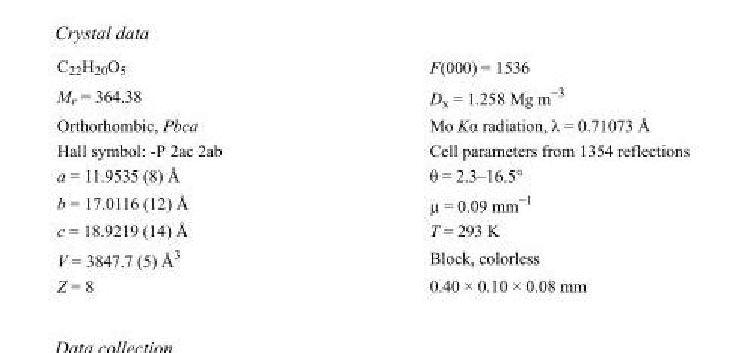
<table><tbody><tr><td>C<sub>22</sub>H<sub>20</sub>O<sub>5</sub></td><td>F(000) = 1536</td></tr><tr><td>M<sub>r</sub> = 364.38</td><td>D<sub>x</sub> = 1.258 Mg m<sup>−3</sup></td></tr><tr><td>Orthorhombic, Pbca</td><td>Mo Kα radiation, λ = 0.71073 Å</td></tr><tr><td>Hall symbol: -P 2ac 2ab</td><td>Cell parameters from 1354 reflections</td></tr><tr><td>a = 11.9535 (8) Å</td><td>θ = 2.3–16.5°</td></tr><tr><td>b = 17.0116 (12) Å</td><td>µ = 0.09 mm<sup>−1</sup></td></tr><tr><td>c = 18.9219 (14) Å</td><td>T = 293 K</td></tr><tr><td>V = 3847.7 (5) Å<sup>3</sup></td><td>Block, colorless</td></tr><tr><td>Z = 8</td><td>0.40 × 0.10 × 0.08 mm</td></tr></tbody></table>